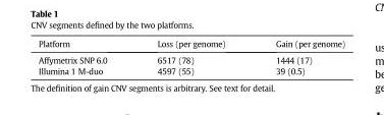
<table><thead><tr><td>Platform</td><td>Loss (per genome)</td><td>Gain (per genome)</td></tr></thead><tbody><tr><td>Affymetrix SNP 6.0</td><td>6517 (78)</td><td>1444 (17)</td></tr><tr><td>Illumina 1 M-duo</td><td>4597 (55)</td><td>39 (0.5)</td></tr></tbody></table>